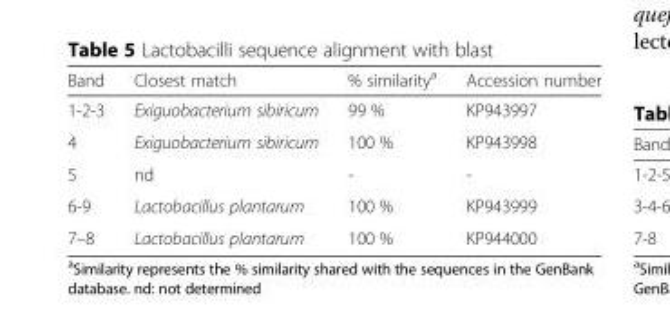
<table><thead><tr><td>Band</td><td>Closest match</td><td>% similarity<sup>a</sup></td><td>Accession number</td></tr></thead><tbody><tr><td>1-2-3</td><td>Exiguobacterium sibiricum</td><td>99 %</td><td>KP943997</td></tr><tr><td>4</td><td>Exiguobacterium sibiricum</td><td>100 %</td><td>KP943998</td></tr><tr><td>5</td><td>nd</td><td>-</td><td>-</td></tr><tr><td>6-9</td><td>Lactobacillus plantarum</td><td>100 %</td><td>KP943999</td></tr><tr><td>7–8</td><td>Lactobacillus plantarum</td><td>100 %</td><td>KP944000</td></tr></tbody></table>